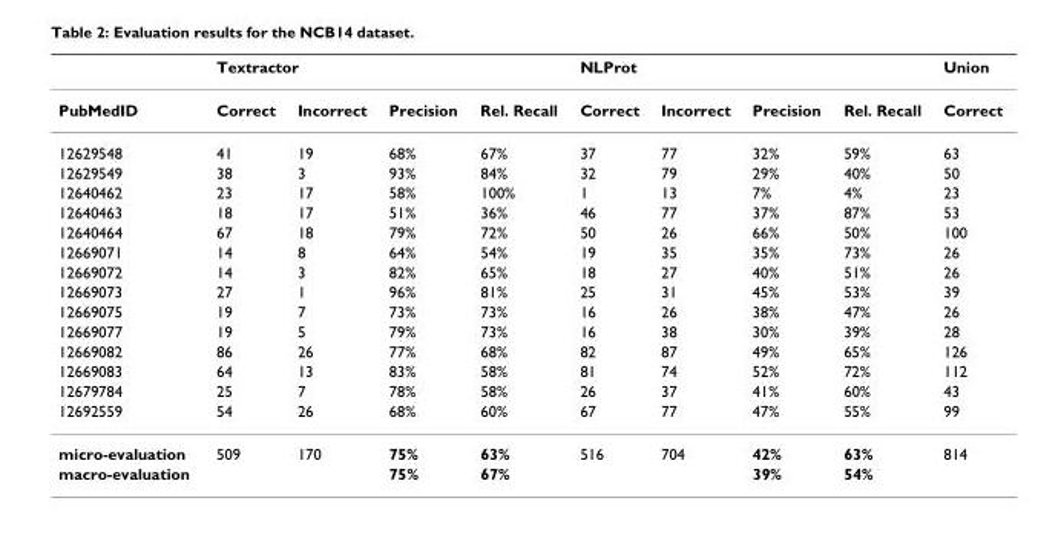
<table><thead><tr><td rowspan="2">PubMedID</td><td colspan="4">Textractor</td><td colspan="4">NLProt</td><td rowspan="2">Union Correct</td></tr><tr><td>Correct</td><td>Incorrect</td><td>Precision</td><td>Rel. Recall</td><td>Correct</td><td>Incorrect</td><td>Precision</td><td>Rel. Recall</td></tr></thead><tbody><tr><td>12629548</td><td>41</td><td>19</td><td>68%</td><td>67%</td><td>37</td><td>77</td><td>32%</td><td>59%</td><td>63</td></tr><tr><td>12629549</td><td>38</td><td>3</td><td>93%</td><td>84%</td><td>32</td><td>79</td><td>29%</td><td>40%</td><td>50</td></tr><tr><td>12640462</td><td>23</td><td>17</td><td>58%</td><td>100%</td><td>1</td><td>13</td><td>7%</td><td>4%</td><td>23</td></tr><tr><td>12640463</td><td>18</td><td>17</td><td>51%</td><td>36%</td><td>46</td><td>77</td><td>37%</td><td>87%</td><td>53</td></tr><tr><td>12640464</td><td>67</td><td>18</td><td>79%</td><td>72%</td><td>50</td><td>26</td><td>66%</td><td>50%</td><td>100</td></tr><tr><td>12669071</td><td>14</td><td>8</td><td>64%</td><td>54%</td><td>19</td><td>35</td><td>35%</td><td>73%</td><td>26</td></tr><tr><td>12669072</td><td>14</td><td>3</td><td>82%</td><td>65%</td><td>18</td><td>27</td><td>40%</td><td>51%</td><td>26</td></tr><tr><td>12669073</td><td>27</td><td>1</td><td>96%</td><td>81%</td><td>25</td><td>31</td><td>45%</td><td>53%</td><td>39</td></tr><tr><td>12669075</td><td>19</td><td>7</td><td>73%</td><td>73%</td><td>16</td><td>26</td><td>38%</td><td>47%</td><td>26</td></tr><tr><td>12669077</td><td>19</td><td>5</td><td>79%</td><td>73%</td><td>16</td><td>38</td><td>30%</td><td>39%</td><td>28</td></tr><tr><td>12669082</td><td>86</td><td>26</td><td>77%</td><td>68%</td><td>82</td><td>87</td><td>49%</td><td>65%</td><td>126</td></tr><tr><td>12669083</td><td>64</td><td>13</td><td>83%</td><td>58%</td><td>81</td><td>74</td><td>52%</td><td>72%</td><td>112</td></tr><tr><td>12679784</td><td>25</td><td>7</td><td>78%</td><td>58%</td><td>26</td><td>37</td><td>41%</td><td>60%</td><td>43</td></tr><tr><td>12692559</td><td>54</td><td>26</td><td>68%</td><td>60%</td><td>67</td><td>77</td><td>47%</td><td>55%</td><td>99</td></tr><tr><td>micro-evaluation</td><td>509</td><td>170</td><td>75%</td><td>63%</td><td>516</td><td>704</td><td>42%</td><td>63%</td><td>814</td></tr><tr><td>macro-evaluation</td><td></td><td></td><td>75%</td><td>67%</td><td></td><td></td><td>39%</td><td>54%</td><td></td></tr></tbody></table>